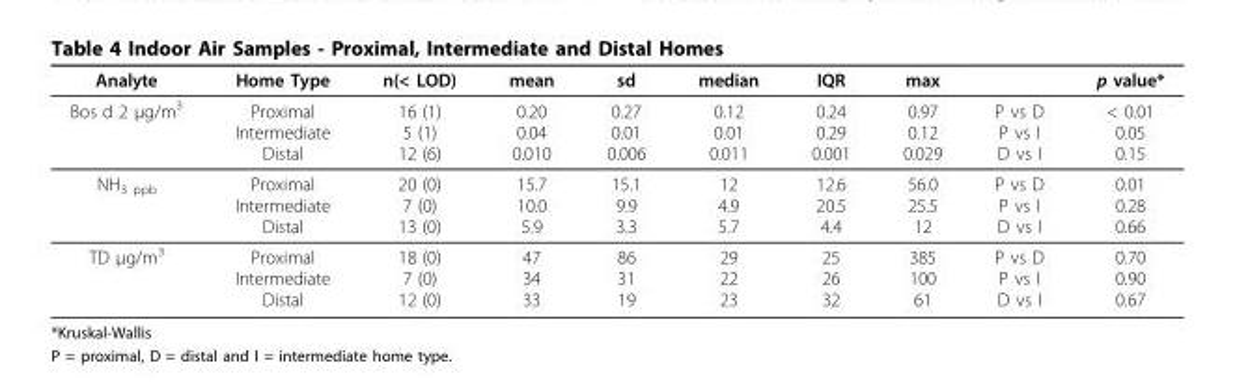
<table><thead><tr><td>Analyte</td><td>Home Type</td><td>n(&lt; LOD)</td><td>mean</td><td>sd</td><td>median</td><td>IQR</td><td>max</td><td></td><td>p value*</td></tr></thead><tbody><tr><td>Bos d 2 μg/m<sup>3</sup></td><td>Proximal Intermediate Distal</td><td>16 (1) 5 (1) 12 (6)</td><td>0.20 0.04 0.010</td><td>0.27 0.01 0.006</td><td>0.12 0.01 0.011</td><td>0.24 0.29 0.001</td><td>0.97 0.12 0.029</td><td>P vs D P vs I D vs I</td><td>&lt; 0.01 0.05 0.15</td></tr><tr><td>NH<sub>3 ppb</sub></td><td>Proximal Intermediate Distal</td><td>20 (0) 7 (0) 13 (0)</td><td>15.7 10.0 5.9</td><td>15.1 9.9 3.3</td><td>12 4.9 5.7</td><td>12.6 20.5 4.4</td><td>56.0 25.5 12</td><td>P vs D P vs I D vs I</td><td>0.01 0.28 0.66</td></tr><tr><td>TD μg/m<sup>3</sup></td><td>Proximal Intermediate Distal</td><td>18 (0) 7 (0) 12 (0)</td><td>47 34 33</td><td>86 31 19</td><td>29 22 23</td><td>25 26 32</td><td>385 100 61</td><td>P vs D P vs I D vs I</td><td>0.70 0.90 0.67</td></tr></tbody></table>